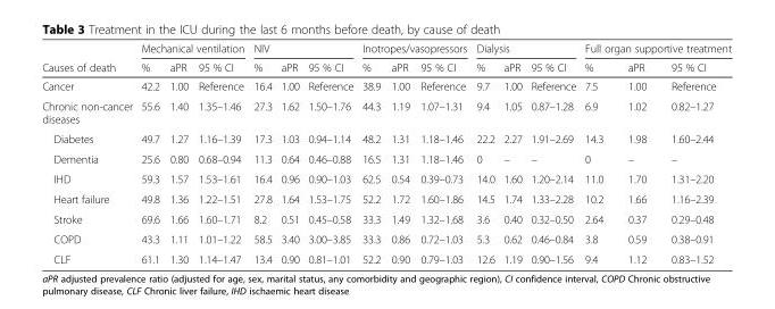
<table><thead><tr><td rowspan="2">Causes of death</td><td colspan="3">Mechanical ventilation</td><td colspan="3">NIV</td><td colspan="3">Inotropes/vasopressors</td><td colspan="3">Dialysis</td><td colspan="3">Full organ supportive treatment</td></tr><tr><td>%</td><td>aPR</td><td>95 % CI</td><td>%</td><td>aPR</td><td>95 % CI</td><td>%</td><td>aPR</td><td>95 % CI</td><td>%</td><td>aPR</td><td>95 % CI</td><td>%</td><td>aPR</td><td>95 % CI</td></tr></thead><tbody><tr><td>Cancer</td><td>42.2</td><td>1.00</td><td>Reference</td><td>16.4</td><td>1.00</td><td>Reference</td><td>38.9</td><td>1.00</td><td>Reference</td><td>9.7</td><td>1.00</td><td>Reference</td><td>7.5</td><td>1.00</td><td>Reference</td></tr><tr><td>Chronic non-cancer diseases</td><td>55.6</td><td>1.40</td><td>1.35–1.46</td><td>27.3</td><td>1.62</td><td>1.50–1.76</td><td>44.3</td><td>1.19</td><td>1.07–1.31</td><td>9.4</td><td>1.05</td><td>0.87–1.28</td><td>6.9</td><td>1.02</td><td>0.82–1.27</td></tr><tr><td>Diabetes</td><td>49.7</td><td>1.27</td><td>1.16–1.39</td><td>17.3</td><td>1.03</td><td>0.94–1.14</td><td>48.2</td><td>1.31</td><td>1.18–1.46</td><td>22.2</td><td>2.27</td><td>1.91–2.69</td><td>14.3</td><td>1.98</td><td>1.60–2.44</td></tr><tr><td>Dementia</td><td>25.6</td><td>0.80</td><td>0.68–0.94</td><td>11.3</td><td>0.64</td><td>0.46–0.88</td><td>16.5</td><td>1.31</td><td>1.18–1.46</td><td>0</td><td>–</td><td>–</td><td>0</td><td>–</td><td>–</td></tr><tr><td>IHD</td><td>59.3</td><td>1.57</td><td>1.53–1.61</td><td>16.4</td><td>0.96</td><td>0.90–1.03</td><td>62.5</td><td>0.54</td><td>0.39–0.73</td><td>14.0</td><td>1.60</td><td>1.20–2.14</td><td>11.0</td><td>1.70</td><td>1.31–2.20</td></tr><tr><td>Heart failure</td><td>49.8</td><td>1.36</td><td>1.22–1.51</td><td>27.8</td><td>1.64</td><td>1.53–1.75</td><td>52.2</td><td>1.72</td><td>1.60–1.86</td><td>14.5</td><td>1.74</td><td>1.33–2.28</td><td>10.2</td><td>1.66</td><td>1.16–2.39</td></tr><tr><td>Stroke</td><td>69.6</td><td>1.66</td><td>1.60–1.71</td><td>8.2</td><td>0.51</td><td>0.45–0.58</td><td>33.3</td><td>1.49</td><td>1.32–1.68</td><td>3.6</td><td>0.40</td><td>0.32–0.50</td><td>2.64</td><td>0.37</td><td>0.29–0.48</td></tr><tr><td>COPD</td><td>43.3</td><td>1.11</td><td>1.01–1.22</td><td>58.5</td><td>3.40</td><td>3.00–3.85</td><td>33.3</td><td>0.86</td><td>0.72–1.03</td><td>5.3</td><td>0.62</td><td>0.46–0.84</td><td>3.8</td><td>0.59</td><td>0.38–0.91</td></tr><tr><td>CLF</td><td>61.1</td><td>1.30</td><td>1.14–1.47</td><td>13.4</td><td>0.90</td><td>0.81–1.01</td><td>52.2</td><td>0.90</td><td>0.79–1.03</td><td>12.6</td><td>1.19</td><td>0.90–1.56</td><td>9.4</td><td>1.12</td><td>0.83–1.52</td></tr></tbody></table>